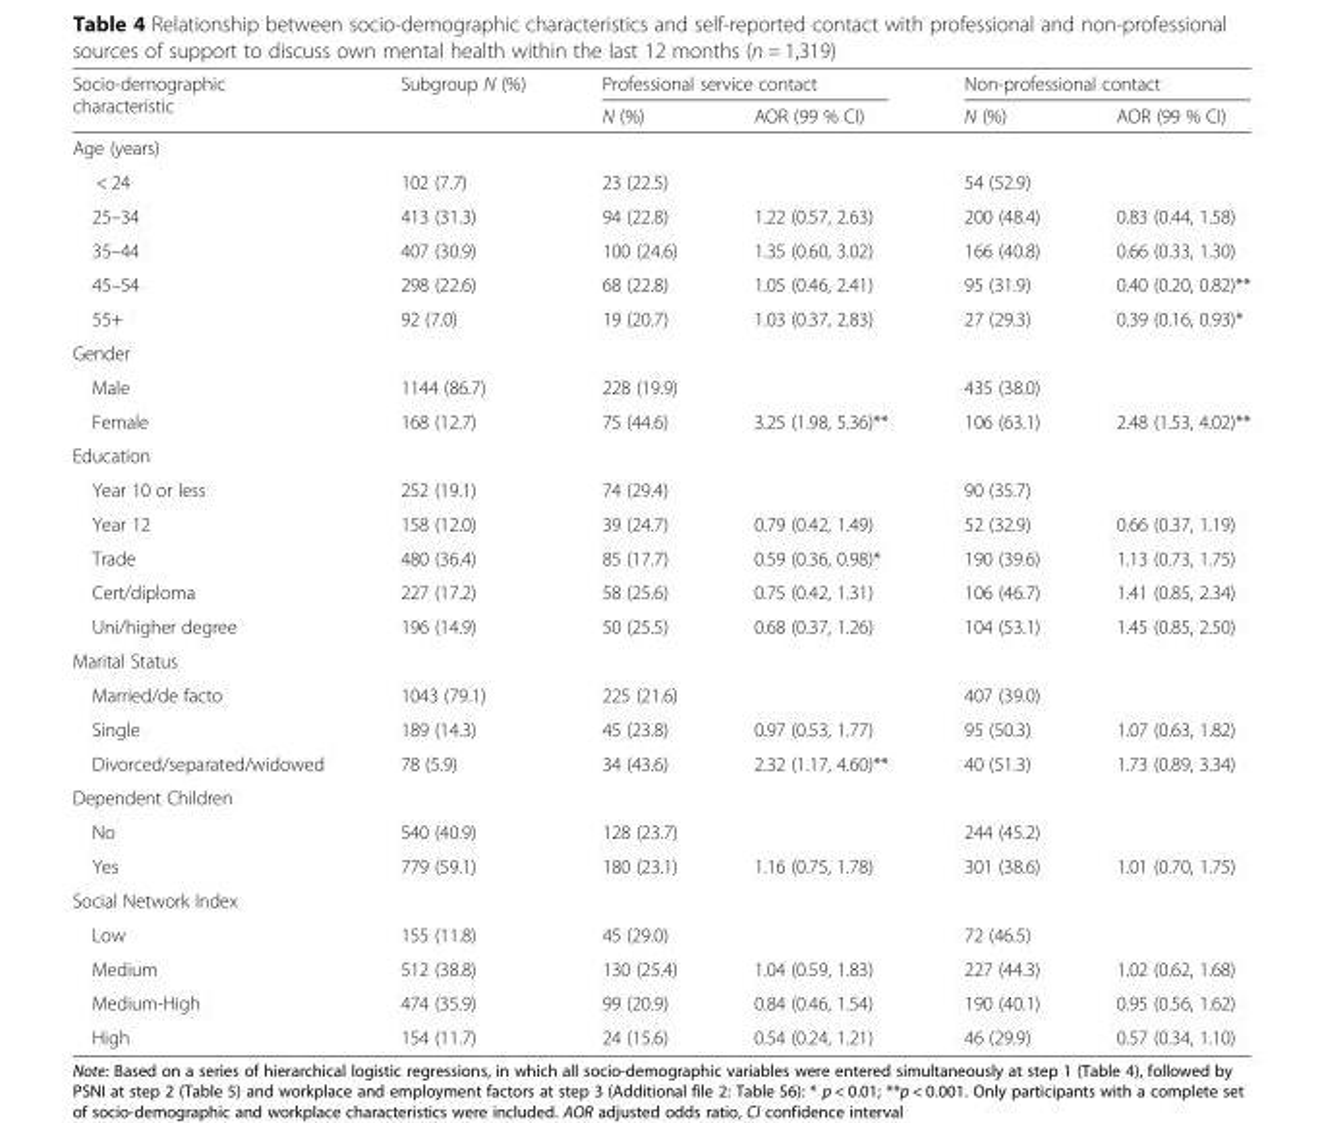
<table><thead><tr><td rowspan="2">Socio-demographic characteristic</td><td rowspan="2">Subgroup N (%)</td><td colspan="2">Professional service contact</td><td colspan="2">Non-professional contact</td></tr><tr><td>N (%)</td><td>AOR (99 % CI)</td><td>N (%)</td><td>AOR (99 % CI)</td></tr></thead><tbody><tr><td colspan="6">Age (years)</td></tr><tr><td>&lt; 24</td><td>102 (7.7)</td><td>23 (22.5)</td><td></td><td>54 (52.9)</td><td></td></tr><tr><td>25–34</td><td>413 (31.3)</td><td>94 (22.8)</td><td>1.22 (0.57, 2.63)</td><td>200 (48.4)</td><td>0.83 (0.44, 1.58)</td></tr><tr><td>35–44</td><td>407 (30.9)</td><td>100 (24.6)</td><td>1.35 (0.60, 3.02)</td><td>166 (40.8)</td><td>0.66 (0.33, 1.30)</td></tr><tr><td>45–54</td><td>298 (22.6)</td><td>68 (22.8)</td><td>1.05 (0.46, 2.41)</td><td>95 (31.9)</td><td>0.40 (0.20, 0.82)**</td></tr><tr><td>55+</td><td>92 (7.0)</td><td>19 (20.7)</td><td>1.03 (0.37, 2.83)</td><td>27 (29.3)</td><td>0.39 (0.16, 0.93)*</td></tr><tr><td colspan="6">Gender</td></tr><tr><td>Male</td><td>1144 (86.7)</td><td>228 (19.9)</td><td></td><td>435 (38.0)</td><td></td></tr><tr><td>Female</td><td>168 (12.7)</td><td>75 (44.6)</td><td>3.25 (1.98, 5.36)**</td><td>106 (63.1)</td><td>2.48 (1.53, 4.02)**</td></tr><tr><td colspan="6">Education</td></tr><tr><td>Year 10 or less</td><td>252 (19.1)</td><td>74 (29.4)</td><td></td><td>90 (35.7)</td><td></td></tr><tr><td>Year 12</td><td>158 (12.0)</td><td>39 (24.7)</td><td>0.79 (0.42, 1.49)</td><td>52 (32.9)</td><td>0.66 (0.37, 1.19)</td></tr><tr><td>Trade</td><td>480 (36.4)</td><td>85 (17.7)</td><td>0.59 (0.36, 0.98)*</td><td>190 (39.6)</td><td>1.13 (0.73, 1.75)</td></tr><tr><td>Cert/diploma</td><td>227 (17.2)</td><td>58 (25.6)</td><td>0.75 (0.42, 1.31)</td><td>106 (46.7)</td><td>1.41 (0.85, 2.34)</td></tr><tr><td>Uni/higher degree</td><td>196 (14.9)</td><td>50 (25.5)</td><td>0.68 (0.37, 1.26)</td><td>104 (53.1)</td><td>1.45 (0.85, 2.50)</td></tr><tr><td colspan="6">Marital Status</td></tr><tr><td>Married/de facto</td><td>1043 (79.1)</td><td>225 (21.6)</td><td></td><td>407 (39.0)</td><td></td></tr><tr><td>Single</td><td>189 (14.3)</td><td>45 (23.8)</td><td>0.97 (0.53, 1.77)</td><td>95 (50.3)</td><td>1.07 (0.63, 1.82)</td></tr><tr><td>Divorced/separated/widowed</td><td>78 (5.9)</td><td>34 (43.6)</td><td>2.32 (1.17, 4.60)**</td><td>40 (51.3)</td><td>1.73 (0.89, 3.34)</td></tr><tr><td colspan="6">Dependent Children</td></tr><tr><td>No</td><td>540 (40.9)</td><td>128 (23.7)</td><td></td><td>244 (45.2)</td><td></td></tr><tr><td>Yes</td><td>779 (59.1)</td><td>180 (23.1)</td><td>1.16 (0.75, 1.78)</td><td>301 (38.6)</td><td>1.01 (0.70, 1.75)</td></tr><tr><td colspan="6">Social Network Index</td></tr><tr><td>Low</td><td>155 (11.8)</td><td>45 (29.0)</td><td></td><td>72 (46.5)</td><td></td></tr><tr><td>Medium</td><td>512 (38.8)</td><td>130 (25.4)</td><td>1.04 (0.59, 1.83)</td><td>227 (44.3)</td><td>1.02 (0.62, 1.68)</td></tr><tr><td>Medium-High</td><td>474 (35.9)</td><td>99 (20.9)</td><td>0.84 (0.46, 1.54)</td><td>190 (40.1)</td><td>0.95 (0.56, 1.62)</td></tr><tr><td>High</td><td>154 (11.7)</td><td>24 (15.6)</td><td>0.54 (0.24, 1.21)</td><td>46 (29.9)</td><td>0.57 (0.34, 1.10)</td></tr></tbody></table>